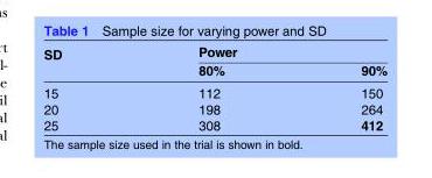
<table><thead><tr><td rowspan="2">SD</td><td colspan="2">Power</td></tr><tr><td>80%</td><td>90%</td></tr></thead><tbody><tr><td>15</td><td>112</td><td>150</td></tr><tr><td>20</td><td>198</td><td>264</td></tr><tr><td>25</td><td>308</td><td>412</td></tr></tbody></table>